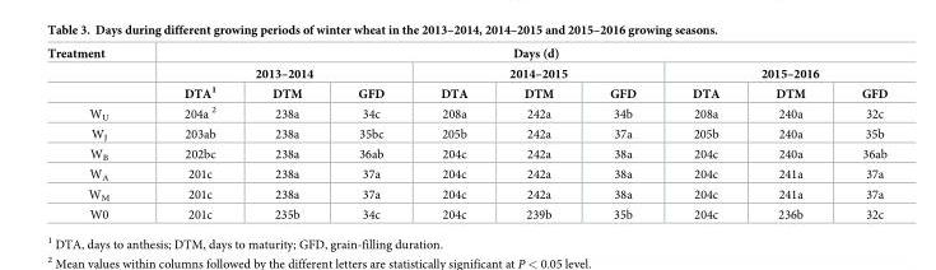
<table><thead><tr><td rowspan="3">Treatment</td><td colspan="9">Days (d)</td></tr><tr><td colspan="3">2013–2014</td><td colspan="3">2014–2015</td><td colspan="3">2015–2016</td></tr><tr><td>DTA<sup>1</sup></td><td>DTM</td><td>GFD</td><td>DTA</td><td>DTM</td><td>GFD</td><td>DTA</td><td>DTM</td><td>GFD</td></tr></thead><tbody><tr><td>W<sub>U</sub></td><td>204a <sup>2</sup></td><td>238a</td><td>34c</td><td>208a</td><td>242a</td><td>34b</td><td>208a</td><td>240a</td><td>32c</td></tr><tr><td>W<sub>J</sub></td><td>203ab</td><td>238a</td><td>35bc</td><td>205b</td><td>242a</td><td>37a</td><td>205b</td><td>240a</td><td>35b</td></tr><tr><td>W<sub>B</sub></td><td>202bc</td><td>238a</td><td>36ab</td><td>204c</td><td>242a</td><td>38a</td><td>204c</td><td>240a</td><td>36ab</td></tr><tr><td>W<sub>A</sub></td><td>201c</td><td>238a</td><td>37a</td><td>204c</td><td>242a</td><td>38a</td><td>204c</td><td>241a</td><td>37a</td></tr><tr><td>W<sub>M</sub></td><td>201c</td><td>238a</td><td>37a</td><td>204c</td><td>242a</td><td>38a</td><td>204c</td><td>241a</td><td>37a</td></tr><tr><td>W0</td><td>201c</td><td>235b</td><td>34c</td><td>204c</td><td>239b</td><td>35b</td><td>204c</td><td>236b</td><td>32c</td></tr></tbody></table>